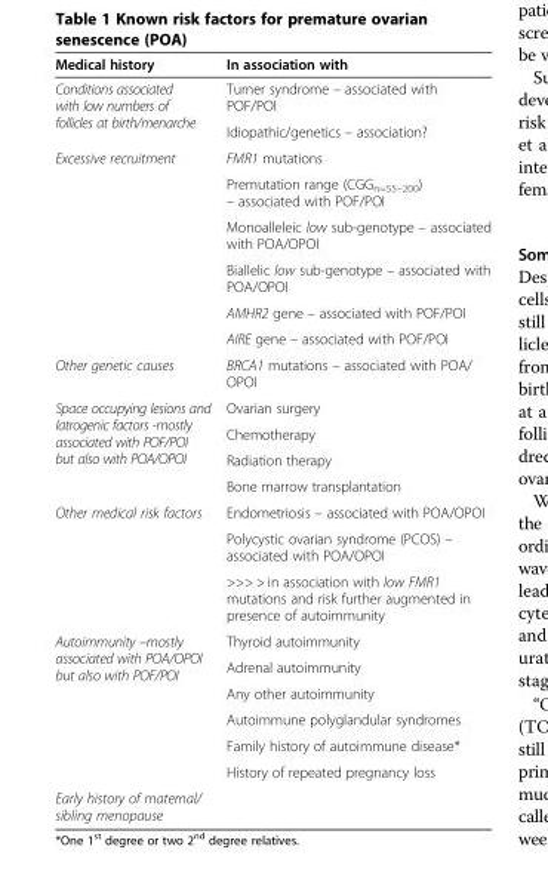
<table><thead><tr><td>Medical history</td><td>In association with</td></tr></thead><tbody><tr><td rowspan="2">Conditions associated with low numbers of follicles at birth/menarche</td><td>Turner syndrome – associated with POF/POI</td></tr><tr><td>Idiopathic/genetics – association?</td></tr><tr><td rowspan="6">Excessive recruitment</td><td>FMR1 mutations</td></tr><tr><td>Premutation range (CGG<sub>n=55–200</sub>) – associated with POF/POI</td></tr><tr><td>Monoalleleic low sub-genotype – associated with POA/OPOI</td></tr><tr><td>Biallelic low sub-genotype – associated with POA/OPOI</td></tr><tr><td>AMHR2 gene – associated with POF/POI</td></tr><tr><td>AIRE gene – associated with POF/POI</td></tr><tr><td>Other genetic causes</td><td>BRCA1 mutations – associated with POA/ OPOI</td></tr><tr><td rowspan="4">Space occupying lesions and Iatrogenic factors -mostly associated with POF/POI but also with POA/OPOI</td><td>Ovarian surgery</td></tr><tr><td>Chemotherapy</td></tr><tr><td>Radiation therapy</td></tr><tr><td>Bone marrow transplantation</td></tr><tr><td rowspan="3">Other medical risk factors</td><td>Endometriosis – associated with POA/OPOI</td></tr><tr><td>Polycystic ovarian syndrome (PCOS) – associated with POA/OPOI</td></tr><tr><td>&gt;&gt;&gt; &gt; in association with low FMR1 mutations and risk further augmented in presence of autoimmunity</td></tr><tr><td rowspan="6">Autoimmunity –mostly associated with POA/OPOI but also with POF/POI</td><td>Thyroid autoimmunity</td></tr><tr><td>Adrenal autoimmunity</td></tr><tr><td>Any other autoimmunity</td></tr><tr><td>Autoimmune polyglandular syndromes</td></tr><tr><td>Family history of autoimmune disease*</td></tr><tr><td>History of repeated pregnancy loss</td></tr><tr><td>Early history of maternal/ sibling menopause</td><td></td></tr></tbody></table>